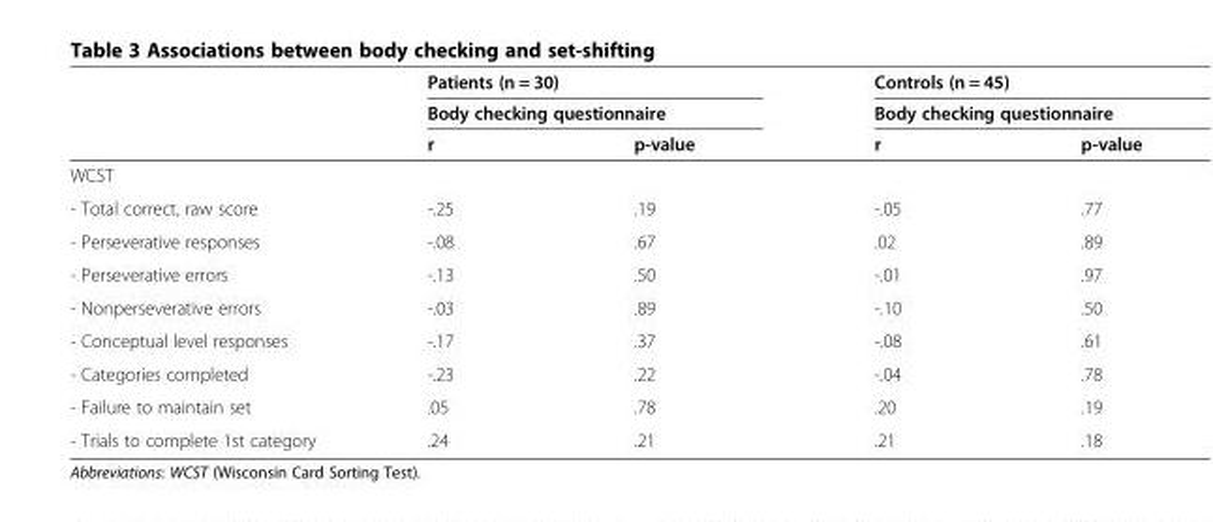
<table><thead><tr><td rowspan="3"></td><td rowspan="2" colspan="2">Patients (n = 30) Body checking questionnaire</td><td rowspan="2" colspan="2">Controls (n = 45) Body checking questionnaire</td></tr><tr></tr><tr><td>r</td><td>p-value</td><td>r</td><td>p-value</td></tr></thead><tbody><tr><td colspan="5">WCST</td></tr><tr><td>- Total correct, raw score</td><td>-.25</td><td>.19</td><td>-.05</td><td>.77</td></tr><tr><td>- Perseverative responses</td><td>-.08</td><td>.67</td><td>.02</td><td>.89</td></tr><tr><td>- Perseverative errors</td><td>-.13</td><td>.50</td><td>-.01</td><td>.97</td></tr><tr><td>- Nonperseverative errors</td><td>-.03</td><td>.89</td><td>-.10</td><td>.50</td></tr><tr><td>- Conceptual level responses</td><td>-.17</td><td>.37</td><td>-.08</td><td>.61</td></tr><tr><td>- Categories completed</td><td>-.23</td><td>.22</td><td>-.04</td><td>.78</td></tr><tr><td>- Failure to maintain set</td><td>.05</td><td>.78</td><td>.20</td><td>.19</td></tr><tr><td>- Trials to complete 1st category</td><td>.24</td><td>.21</td><td>.21</td><td>.18</td></tr></tbody></table>